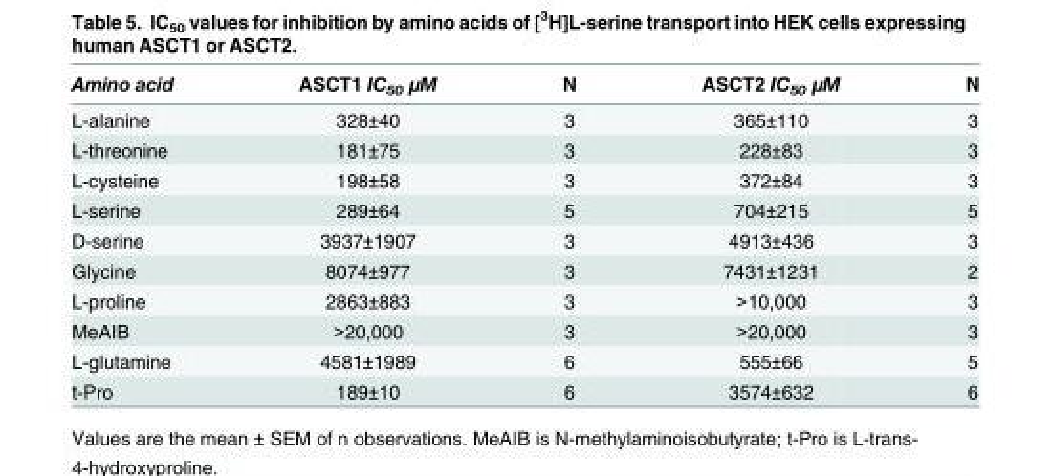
<table><thead><tr><td>Amino acid</td><td>ASCT1 IC<sub>50</sub> μM</td><td>N</td><td>ASCT2 IC<sub>50</sub> μM</td><td>N</td></tr></thead><tbody><tr><td>L-alanine</td><td>328±40</td><td>3</td><td>365±110</td><td>3</td></tr><tr><td>L-threonine</td><td>181±75</td><td>3</td><td>228±83</td><td>3</td></tr><tr><td>L-cysteine</td><td>198±58</td><td>3</td><td>372±84</td><td>3</td></tr><tr><td>L-serine</td><td>289±64</td><td>5</td><td>704±215</td><td>5</td></tr><tr><td>D-serine</td><td>3937±1907</td><td>3</td><td>4913±436</td><td>3</td></tr><tr><td>Glycine</td><td>8074±977</td><td>3</td><td>7431±1231</td><td>2</td></tr><tr><td>L-proline</td><td>2863±883</td><td>3</td><td>&gt;10,000</td><td>3</td></tr><tr><td>MeAIB</td><td>&gt;20,000</td><td>3</td><td>&gt;20,000</td><td>3</td></tr><tr><td>L-glutamine</td><td>4581±1989</td><td>6</td><td>555±66</td><td>5</td></tr><tr><td>t-Pro</td><td>189±10</td><td>6</td><td>3574±632</td><td>6</td></tr></tbody></table>